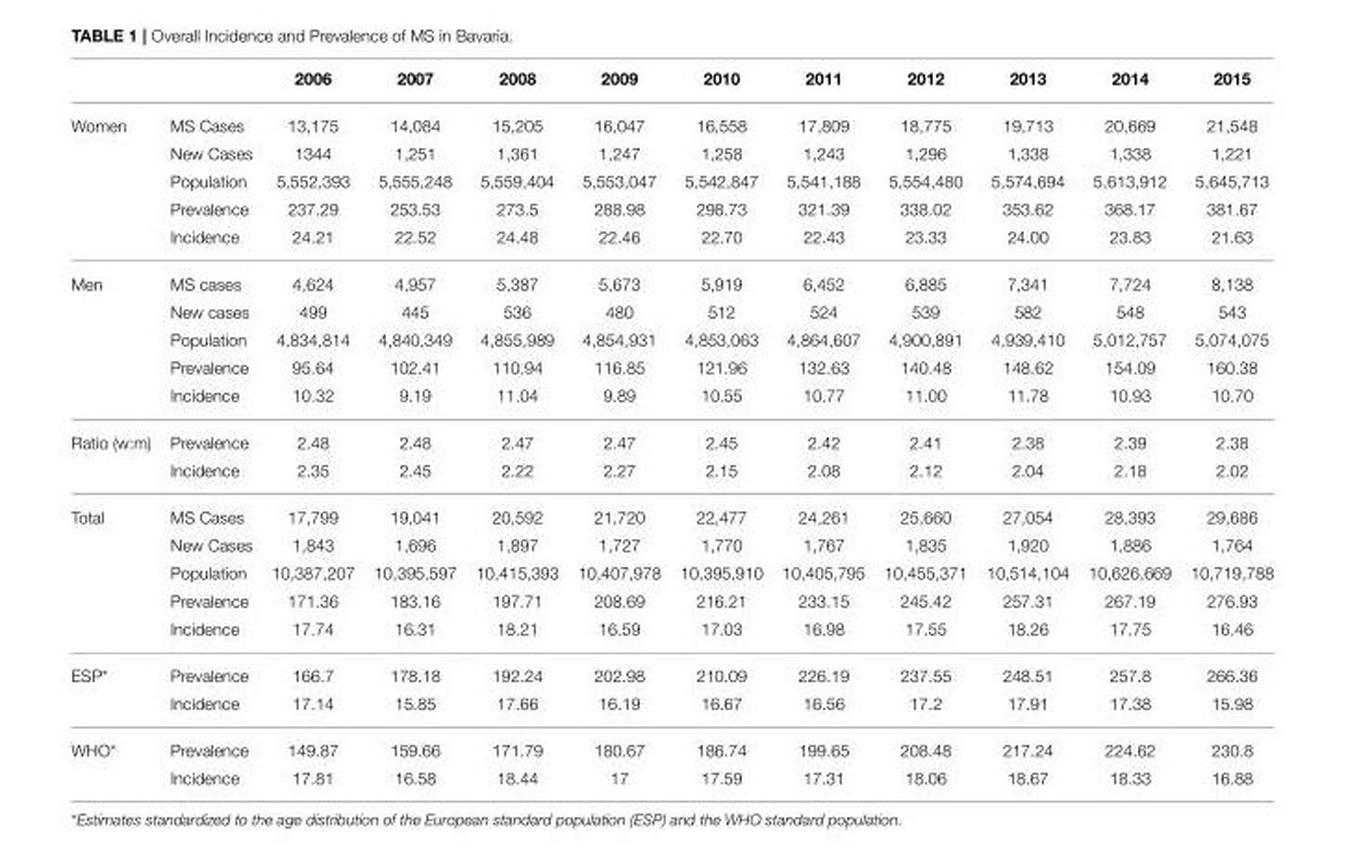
<table><thead><tr><td></td><td></td><td>2006</td><td>2007</td><td>2008</td><td>2009</td><td>2010</td><td>2011</td><td>2012</td><td>2013</td><td>2014</td><td>2015</td></tr></thead><tbody><tr><td rowspan="5">Women</td><td>MS Cases</td><td>13,175</td><td>14,084</td><td>15,205</td><td>16,047</td><td>16,558</td><td>17,809</td><td>18,775</td><td>19,713</td><td>20,669</td><td>21,548</td></tr><tr><td>New Cases</td><td>1344</td><td>1,251</td><td>1,361</td><td>1,247</td><td>1,258</td><td>1,243</td><td>1,296</td><td>1,338</td><td>1,338</td><td>1,221</td></tr><tr><td>Population</td><td>5,552,393</td><td>5,555,248</td><td>5,559,404</td><td>5,553,047</td><td>5,542,847</td><td>5,541,188</td><td>5,554,480</td><td>5,574,694</td><td>5,613,912</td><td>5,645,713</td></tr><tr><td>Prevalence</td><td>237.29</td><td>253.53</td><td>273.5</td><td>288.98</td><td>298.73</td><td>321.39</td><td>338.02</td><td>353.62</td><td>368.17</td><td>381.67</td></tr><tr><td>Incidence</td><td>24.21</td><td>22.52</td><td>24.48</td><td>22.46</td><td>22.70</td><td>22.43</td><td>23.33</td><td>24.00</td><td>23.83</td><td>21.63</td></tr><tr><td rowspan="5">Men</td><td>MS cases</td><td>4,624</td><td>4,957</td><td>5,387</td><td>5,673</td><td>5,919</td><td>6,452</td><td>6,885</td><td>7,341</td><td>7,724</td><td>8,138</td></tr><tr><td>New cases</td><td>499</td><td>445</td><td>536</td><td>480</td><td>512</td><td>524</td><td>539</td><td>582</td><td>548</td><td>543</td></tr><tr><td>Population</td><td>4,834,814</td><td>4,840,349</td><td>4,855,989</td><td>4,854,931</td><td>4,853,063</td><td>4,864,607</td><td>4,900,891</td><td>4,939,410</td><td>5,012,757</td><td>5,074,075</td></tr><tr><td>Prevalence</td><td>95.64</td><td>102.41</td><td>110.94</td><td>116.85</td><td>121.96</td><td>132.63</td><td>140.48</td><td>148.62</td><td>154.09</td><td>160.38</td></tr><tr><td>Incidence</td><td>10.32</td><td>9.19</td><td>11.04</td><td>9.89</td><td>10.55</td><td>10.77</td><td>11.00</td><td>11.78</td><td>10.93</td><td>10.70</td></tr><tr><td rowspan="2">Ratio (w:m)</td><td>Prevalence</td><td>2.48</td><td>2.48</td><td>2.47</td><td>2.47</td><td>2.45</td><td>2.42</td><td>2.41</td><td>2.38</td><td>2.39</td><td>2.38</td></tr><tr><td>Incidence</td><td>2.35</td><td>2.45</td><td>2.22</td><td>2.27</td><td>2.15</td><td>2.08</td><td>2.12</td><td>2.04</td><td>2.18</td><td>2.02</td></tr><tr><td rowspan="5">Total</td><td>MS Cases</td><td>17,799</td><td>19,041</td><td>20,592</td><td>21,720</td><td>22,477</td><td>24,261</td><td>25,660</td><td>27,054</td><td>28,393</td><td>29,686</td></tr><tr><td>New Cases</td><td>1,843</td><td>1,696</td><td>1,897</td><td>1,727</td><td>1,770</td><td>1,767</td><td>1,835</td><td>1,920</td><td>1,886</td><td>1,764</td></tr><tr><td>Population</td><td>10,387,207</td><td>10,395,597</td><td>10,415,393</td><td>10,407,978</td><td>10,395,910</td><td>10,405,795</td><td>10,455,371</td><td>10,514,104</td><td>10,626,669</td><td>10,719,788</td></tr><tr><td>Prevalence</td><td>171.36</td><td>183.16</td><td>197.71</td><td>208.69</td><td>216.21</td><td>233.15</td><td>245.42</td><td>257.31</td><td>267.19</td><td>276.93</td></tr><tr><td>Incidence</td><td>17.74</td><td>16.31</td><td>18.21</td><td>16.59</td><td>17.03</td><td>16.98</td><td>17.55</td><td>18.26</td><td>17.75</td><td>16.46</td></tr><tr><td rowspan="2">ESP*</td><td>Prevalence</td><td>166.7</td><td>178.18</td><td>192.24</td><td>202.98</td><td>210.09</td><td>226.19</td><td>237.55</td><td>248.51</td><td>257.8</td><td>266.36</td></tr><tr><td>Incidence</td><td>17.14</td><td>15.85</td><td>17.66</td><td>16.19</td><td>16.67</td><td>16.56</td><td>17.2</td><td>17.91</td><td>17.38</td><td>15.98</td></tr><tr><td rowspan="2">WHO*</td><td>Prevalence</td><td>149.87</td><td>159.66</td><td>171.79</td><td>180.67</td><td>186.74</td><td>199.65</td><td>208.48</td><td>217.24</td><td>224.62</td><td>230.8</td></tr><tr><td>Incidence</td><td>17.81</td><td>16.58</td><td>18.44</td><td>17</td><td>17.59</td><td>17.31</td><td>18.06</td><td>18.67</td><td>18.33</td><td>16.88</td></tr></tbody></table>